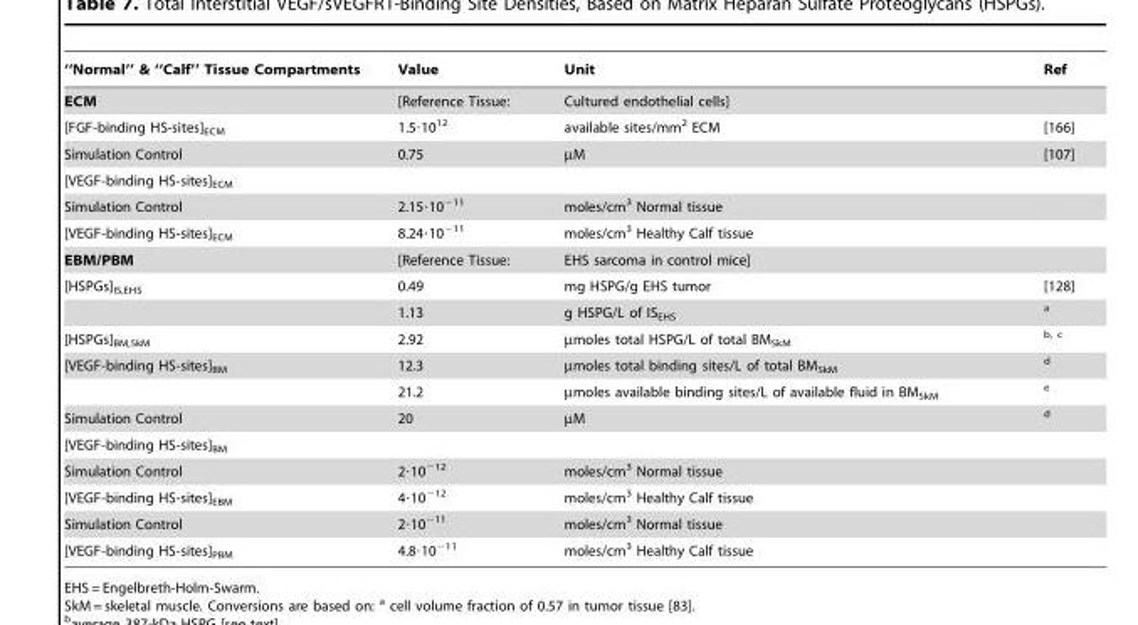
<table><thead><tr><td>‘‘Normal’’ &amp; ‘‘Calf’’ Tissue Compartments</td><td>Value</td><td>Unit</td><td>Ref</td></tr></thead><tbody><tr><td>ECM</td><td>[Reference Tissue:</td><td>Cultured endothelial cells]</td><td></td></tr><tr><td>[FGF-binding HS-sites]<sub>ECM</sub></td><td>1.5·10<sup>12</sup></td><td>available sites/mm<sup>2</sup> ECM</td><td>[166]</td></tr><tr><td>Simulation Control</td><td>0.75</td><td>µM</td><td>[107]</td></tr><tr><td colspan="4">[VEGF-binding HS-sites]<sub>ECM</sub></td></tr><tr><td>Simulation Control</td><td>2.15·10<sup>−11</sup></td><td>moles/cm<sup>3</sup> Normal tissue</td><td></td></tr><tr><td>[VEGF-binding HS-sites]<sub>ECM</sub></td><td>8.24·10<sup>−11</sup></td><td>moles/cm<sup>3</sup> Healthy Calf tissue</td><td></td></tr><tr><td>EBM/PBM</td><td>[Reference Tissue:</td><td>EHS sarcoma in control mice]</td><td></td></tr><tr><td rowspan="2">[HSPGs]<sub>IS,EHS</sub></td><td>0.49</td><td>mg HSPG/g EHS tumor</td><td>[128]</td></tr><tr><td>1.13</td><td>g HSPG/L of IS<sub>EHS</sub></td><td>a</td></tr><tr><td>[HSPGs]<sub>BM,SkM</sub></td><td>2.92</td><td>µmoles total HSPG/L of total BM<sub>SkM</sub></td><td>b<sup>,</sup> c</td></tr><tr><td rowspan="2">[VEGF-binding HS-sites]<sub>BM</sub></td><td>12.3</td><td>µmoles total binding sites/L of total BM<sub>SkM</sub></td><td>d</td></tr><tr><td>21.2</td><td>µmoles available binding sites/L of available fluid in BM<sub>SkM</sub></td><td>e</td></tr><tr><td>Simulation Control</td><td>20</td><td>µM</td><td>d</td></tr><tr><td colspan="4">[VEGF-binding HS-sites]<sub>BM</sub></td></tr><tr><td>Simulation Control</td><td>2·10<sup>−12</sup></td><td>moles/cm<sup>3</sup> Normal tissue</td><td></td></tr><tr><td>[VEGF-binding HS-sites]<sub>EBM</sub></td><td>4·10<sup>−12</sup></td><td>moles/cm<sup>3</sup> Healthy Calf tissue</td><td></td></tr><tr><td>Simulation Control</td><td>2·10<sup>−11</sup></td><td>moles/cm<sup>3</sup> Normal tissue</td><td></td></tr><tr><td>[VEGF-binding HS-sites]<sub>PBM</sub></td><td>4.8·10<sup>−11</sup></td><td>moles/cm<sup>3</sup> Healthy Calf tissue</td><td></td></tr></tbody></table>